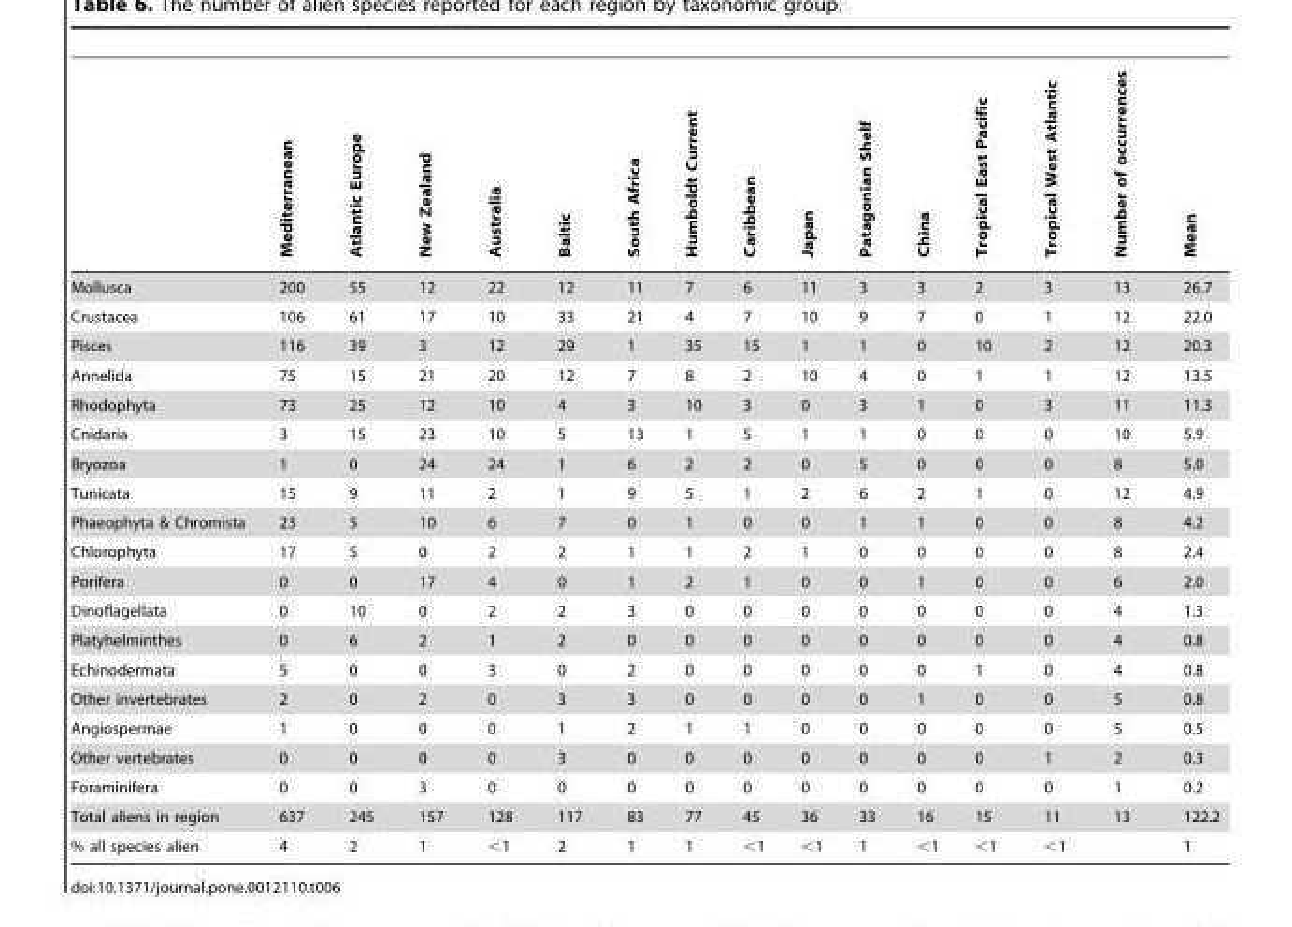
<table><thead><tr><td></td><td>Mediterranean</td><td>Atlantic Europe</td><td>New Zealand</td><td>Australia</td><td>Baltic</td><td>South Africa</td><td>Humboldt Current</td><td>Caribbean</td><td>Japan</td><td>Patagonian Shelf</td><td>China</td><td>Tropical East Pacific</td><td>Tropical West Atlantic</td><td>Number of occurrences</td><td>Mean</td></tr></thead><tbody><tr><td>Mollusca</td><td>200</td><td>55</td><td>12</td><td>22</td><td>12</td><td>11</td><td>7</td><td>6</td><td>11</td><td>3</td><td>3</td><td>2</td><td>3</td><td>13</td><td>26.7</td></tr><tr><td>Crustacea</td><td>106</td><td>61</td><td>17</td><td>10</td><td>33</td><td>21</td><td>4</td><td>7</td><td>10</td><td>9</td><td>7</td><td>0</td><td>1</td><td>12</td><td>22.0</td></tr><tr><td>Pisces</td><td>116</td><td>39</td><td>3</td><td>12</td><td>29</td><td>1</td><td>35</td><td>15</td><td>1</td><td>1</td><td>0</td><td>10</td><td>2</td><td>12</td><td>20.3</td></tr><tr><td>Annelida</td><td>75</td><td>15</td><td>21</td><td>20</td><td>12</td><td>7</td><td>8</td><td>2</td><td>10</td><td>4</td><td>0</td><td>1</td><td>1</td><td>12</td><td>13.5</td></tr><tr><td>Rhodophyta</td><td>73</td><td>25</td><td>12</td><td>10</td><td>4</td><td>3</td><td>10</td><td>3</td><td>0</td><td>3</td><td>1</td><td>0</td><td>3</td><td>11</td><td>11.3</td></tr><tr><td>Cnidaria</td><td>3</td><td>15</td><td>23</td><td>10</td><td>5</td><td>13</td><td>1</td><td>5</td><td>1</td><td>1</td><td>0</td><td>0</td><td>0</td><td>10</td><td>5.9</td></tr><tr><td>Bryozoa</td><td>1</td><td>0</td><td>24</td><td>24</td><td>1</td><td>6</td><td>2</td><td>2</td><td>0</td><td>5</td><td>0</td><td>0</td><td>0</td><td>8</td><td>5.0</td></tr><tr><td>Tunicata</td><td>15</td><td>9</td><td>11</td><td>2</td><td>1</td><td>9</td><td>5</td><td>1</td><td>2</td><td>6</td><td>2</td><td>1</td><td>0</td><td>12</td><td>4.9</td></tr><tr><td>Phaeophyta &amp; Chromista</td><td>23</td><td>5</td><td>10</td><td>6</td><td>7</td><td>0</td><td>1</td><td>0</td><td>0</td><td>1</td><td>1</td><td>0</td><td>0</td><td>8</td><td>4.2</td></tr><tr><td>Chlorophyta</td><td>17</td><td>5</td><td>0</td><td>2</td><td>2</td><td>1</td><td>1</td><td>2</td><td>1</td><td>0</td><td>0</td><td>0</td><td>0</td><td>8</td><td>2.4</td></tr><tr><td>Porifera</td><td>0</td><td>0</td><td>17</td><td>4</td><td>0</td><td>1</td><td>2</td><td>1</td><td>0</td><td>0</td><td>1</td><td>0</td><td>0</td><td>6</td><td>2.0</td></tr><tr><td>Dinoflagellata</td><td>0</td><td>10</td><td>0</td><td>2</td><td>2</td><td>3</td><td>0</td><td>0</td><td>0</td><td>0</td><td>0</td><td>0</td><td>0</td><td>4</td><td>1.3</td></tr><tr><td>Platyhelminthes</td><td>0</td><td>6</td><td>2</td><td>1</td><td>2</td><td>0</td><td>0</td><td>0</td><td>0</td><td>0</td><td>0</td><td>0</td><td>0</td><td>4</td><td>0.8</td></tr><tr><td>Echinodermata</td><td>5</td><td>0</td><td>0</td><td>3</td><td>0</td><td>2</td><td>0</td><td>0</td><td>0</td><td>0</td><td>0</td><td>1</td><td>0</td><td>4</td><td>0.8</td></tr><tr><td>Other invertebrates</td><td>2</td><td>0</td><td>2</td><td>0</td><td>3</td><td>3</td><td>0</td><td>0</td><td>0</td><td>0</td><td>1</td><td>0</td><td>0</td><td>5</td><td>0.8</td></tr><tr><td>Angiospermae</td><td>1</td><td>0</td><td>0</td><td>0</td><td>1</td><td>2</td><td>1</td><td>1</td><td>0</td><td>0</td><td>0</td><td>0</td><td>0</td><td>5</td><td>0.5</td></tr><tr><td>Other vertebrates</td><td>0</td><td>0</td><td>0</td><td>0</td><td>3</td><td>0</td><td>0</td><td>0</td><td>0</td><td>0</td><td>0</td><td>0</td><td>1</td><td>2</td><td>0.3</td></tr><tr><td>Foraminifera</td><td>0</td><td>0</td><td>3</td><td>0</td><td>0</td><td>0</td><td>0</td><td>0</td><td>0</td><td>0</td><td>0</td><td>0</td><td>0</td><td>1</td><td>0.2</td></tr><tr><td>Total aliens in region</td><td>637</td><td>245</td><td>157</td><td>128</td><td>117</td><td>83</td><td>77</td><td>45</td><td>36</td><td>33</td><td>16</td><td>15</td><td>11</td><td>13</td><td>122.2</td></tr><tr><td>% all species alien</td><td>4</td><td>2</td><td>1</td><td>&lt;1</td><td>2</td><td>1</td><td>1</td><td>&lt;1</td><td>&lt;1</td><td>1</td><td>&lt;1</td><td>&lt;1</td><td>&lt;1</td><td></td><td>1</td></tr></tbody></table>